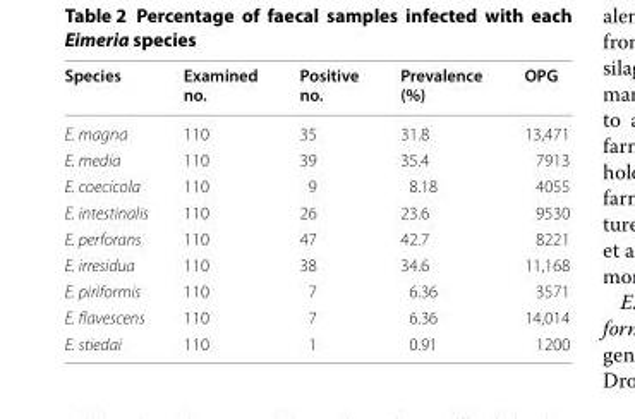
<table><thead><tr><td>Species</td><td>Examined no.</td><td>Positive no.</td><td>Prevalence (%)</td><td>OPG</td></tr></thead><tbody><tr><td>E. magna</td><td>110</td><td>35</td><td>31.8</td><td>13,471</td></tr><tr><td>E. media</td><td>110</td><td>39</td><td>35.4</td><td>7913</td></tr><tr><td>E. coecicola</td><td>110</td><td>9</td><td>8.18</td><td>4055</td></tr><tr><td>E. intestinalis</td><td>110</td><td>26</td><td>23.6</td><td>9530</td></tr><tr><td>E. perforans</td><td>110</td><td>47</td><td>42.7</td><td>8221</td></tr><tr><td>E. irresidua</td><td>110</td><td>38</td><td>34.6</td><td>11,168</td></tr><tr><td>E. piriformis</td><td>110</td><td>7</td><td>6.36</td><td>3571</td></tr><tr><td>E. flavescens</td><td>110</td><td>7</td><td>6.36</td><td>14,014</td></tr><tr><td>E. stiedai</td><td>110</td><td>1</td><td>0.91</td><td>1200</td></tr></tbody></table>